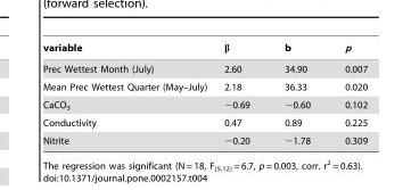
<table><thead><tr><td>variable</td><td>β</td><td>b</td><td>p</td></tr></thead><tbody><tr><td>Prec Wettest Month (July)</td><td>2.60</td><td>34.90</td><td>0.007</td></tr><tr><td>Mean Prec Wettest Quarter (May–July)</td><td>2.18</td><td>36.33</td><td>0.020</td></tr><tr><td>CaCO<sub>3</sub></td><td>−0.69</td><td>−0.60</td><td>0.102</td></tr><tr><td>Conductivity</td><td>0.47</td><td>0.89</td><td>0.225</td></tr><tr><td>Nitrite</td><td>−0.20</td><td>−1.78</td><td>0.309</td></tr></tbody></table>